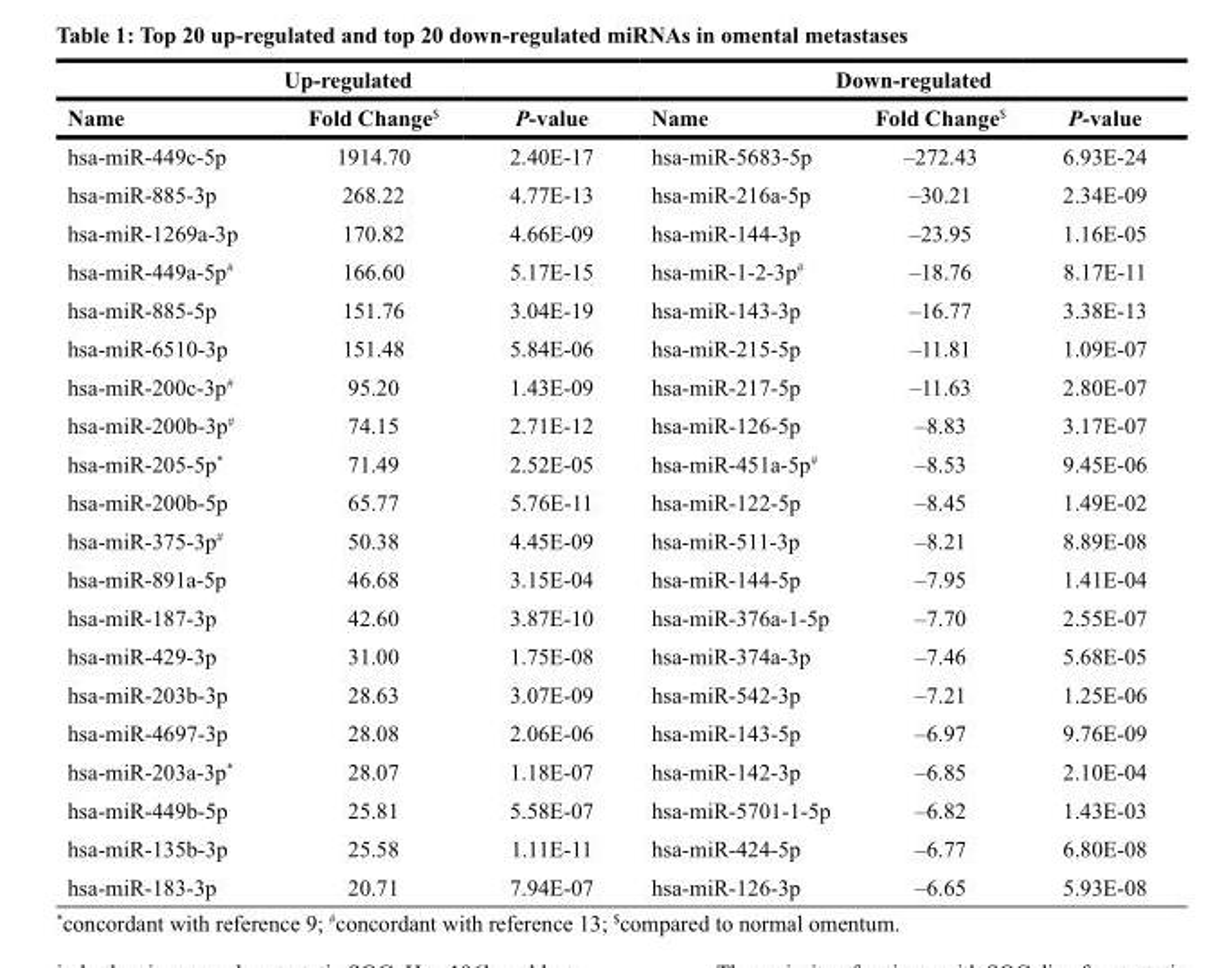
<table><thead><tr><td colspan="3">Up-regulated</td><td colspan="3">Down-regulated</td></tr><tr><td>Name</td><td>Fold Change<sup>$</sup></td><td>P-value</td><td>Name</td><td>Fold Change<sup>$</sup></td><td>P-value</td></tr></thead><tbody><tr><td>hsa-miR-449c-5p</td><td>1914.70</td><td>2.40E-17</td><td>hsa-miR-5683-5p</td><td>–272.43</td><td>6.93E-24</td></tr><tr><td>hsa-miR-885-3p</td><td>268.22</td><td>4.77E-13</td><td>hsa-miR-216a-5p</td><td>–30.21</td><td>2.34E-09</td></tr><tr><td>hsa-miR-1269a-3p</td><td>170.82</td><td>4.66E-09</td><td>hsa-miR-144-3p</td><td>–23.95</td><td>1.16E-05</td></tr><tr><td>hsa-miR-449a-5p<sup>#</sup></td><td>166.60</td><td>5.17E-15</td><td>hsa-miR-1-2-3p<sup>#</sup></td><td>–18.76</td><td>8.17E-11</td></tr><tr><td>hsa-miR-885-5p</td><td>151.76</td><td>3.04E-19</td><td>hsa-miR-143-3p</td><td>–16.77</td><td>3.38E-13</td></tr><tr><td>hsa-miR-6510-3p</td><td>151.48</td><td>5.84E-06</td><td>hsa-miR-215-5p</td><td>–11.81</td><td>1.09E-07</td></tr><tr><td>hsa-miR-200c-3p<sup>#</sup></td><td>95.20</td><td>1.43E-09</td><td>hsa-miR-217-5p</td><td>–11.63</td><td>2.80E-07</td></tr><tr><td>hsa-miR-200b-3p<sup>#</sup></td><td>74.15</td><td>2.71E-12</td><td>hsa-miR-126-5p</td><td>–8.83</td><td>3.17E-07</td></tr><tr><td>hsa-miR-205-5p*</td><td>71.49</td><td>2.52E-05</td><td>hsa-miR-451a-5p<sup>#</sup></td><td>–8.53</td><td>9.45E-06</td></tr><tr><td>hsa-miR-200b-5p</td><td>65.77</td><td>5.76E-11</td><td>hsa-miR-122-5p</td><td>–8.45</td><td>1.49E-02</td></tr><tr><td>hsa-miR-375-3p<sup>#</sup></td><td>50.38</td><td>4.45E-09</td><td>hsa-miR-511-3p</td><td>–8.21</td><td>8.89E-08</td></tr><tr><td>hsa-miR-891a-5p</td><td>46.68</td><td>3.15E-04</td><td>hsa-miR-144-5p</td><td>–7.95</td><td>1.41E-04</td></tr><tr><td>hsa-miR-187-3p</td><td>42.60</td><td>3.87E-10</td><td>hsa-miR-376a-1-5p</td><td>–7.70</td><td>2.55E-07</td></tr><tr><td>hsa-miR-429-3p</td><td>31.00</td><td>1.75E-08</td><td>hsa-miR-374a-3p</td><td>–7.46</td><td>5.68E-05</td></tr><tr><td>hsa-miR-203b-3p</td><td>28.63</td><td>3.07E-09</td><td>hsa-miR-542-3p</td><td>–7.21</td><td>1.25E-06</td></tr><tr><td>hsa-miR-4697-3p</td><td>28.08</td><td>2.06E-06</td><td>hsa-miR-143-5p</td><td>–6.97</td><td>9.76E-09</td></tr><tr><td>hsa-miR-203a-3p*</td><td>28.07</td><td>1.18E-07</td><td>hsa-miR-142-3p</td><td>–6.85</td><td>2.10E-04</td></tr><tr><td>hsa-miR-449b-5p</td><td>25.81</td><td>5.58E-07</td><td>hsa-miR-5701-1-5p</td><td>–6.82</td><td>1.43E-03</td></tr><tr><td>hsa-miR-135b-3p</td><td>25.58</td><td>1.11E-11</td><td>hsa-miR-424-5p</td><td>–6.77</td><td>6.80E-08</td></tr><tr><td>hsa-miR-183-3p</td><td>20.71</td><td>7.94E-07</td><td>hsa-miR-126-3p</td><td>–6.65</td><td>5.93E-08</td></tr></tbody></table>